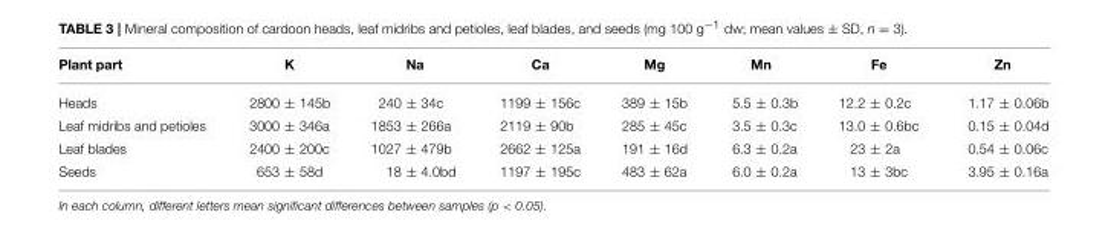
<table><thead><tr><td>Plant part</td><td>K</td><td>Na</td><td>Ca</td><td>Mg</td><td>Mn</td><td>Fe</td><td>Zn</td></tr></thead><tbody><tr><td>Heads</td><td>2800 ± 145b</td><td>240 ± 34c</td><td>1199 ± 156c</td><td>389 ± 15b</td><td>5.5 ± 0.3b</td><td>12.2 ± 0.2c</td><td>1.17 ± 0.06b</td></tr><tr><td>Leaf midribs and petioles</td><td>3000 ± 346a</td><td>1853 ± 266a</td><td>2119 ± 90b</td><td>285 ± 45c</td><td>3.5 ± 0.3c</td><td>13.0 ± 0.6bc</td><td>0.15 ± 0.04d</td></tr><tr><td>Leaf blades</td><td>2400 ± 200c</td><td>1027 ± 479b</td><td>2662 ± 125a</td><td>191 ± 16d</td><td>6.3 ± 0.2a</td><td>23 ± 2a</td><td>0.54 ± 0.06c</td></tr><tr><td>Seeds</td><td>653 ± 58d</td><td>18 ± 4.0bd</td><td>1197 ± 195c</td><td>483 ± 62a</td><td>6.0 ± 0.2a</td><td>13 ± 3bc</td><td>3.95 ± 0.16a</td></tr></tbody></table>